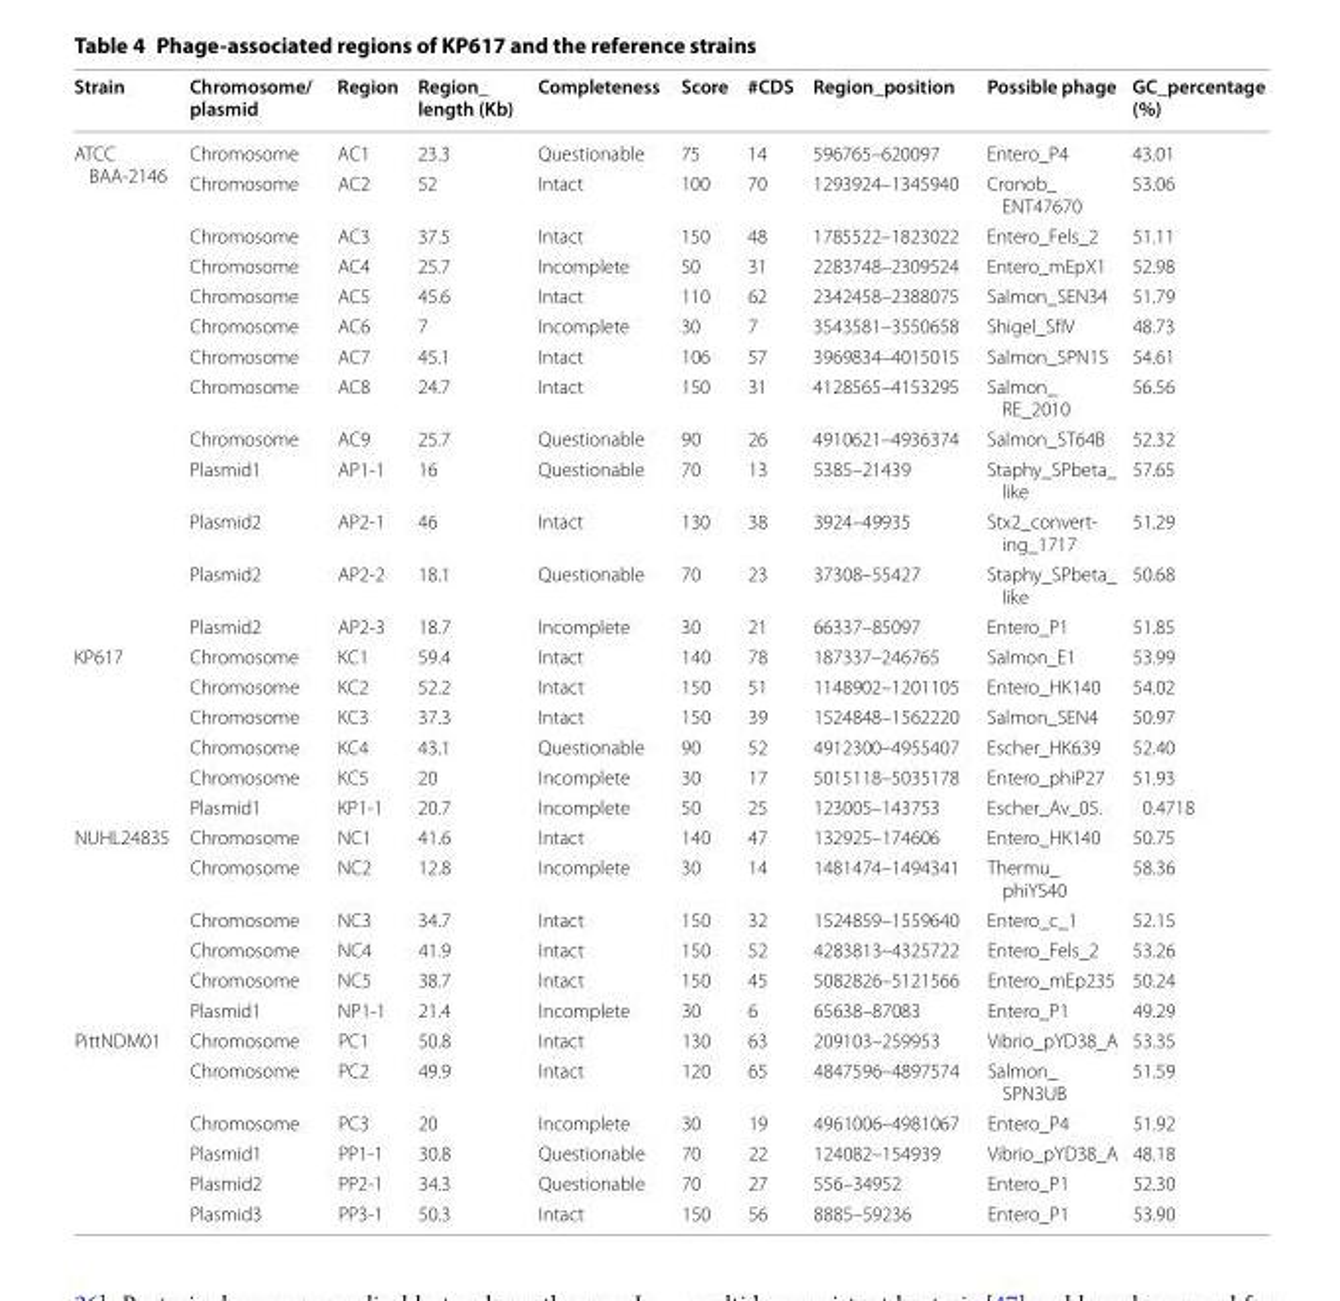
<table><thead><tr><td>Strain</td><td>Chromosome/ plasmid</td><td>Region</td><td>Region_ length (Kb)</td><td>Completeness</td><td>Score</td><td>#CDS</td><td>Region_position</td><td>Possible phage</td><td>GC_percentage (%)</td></tr></thead><tbody><tr><td rowspan="13">ATCC BAA‑2146</td><td>Chromosome</td><td>AC1</td><td>23.3</td><td>Questionable</td><td>75</td><td>14</td><td>596765–620097</td><td>Entero_P4</td><td>43.01</td></tr><tr><td>Chromosome</td><td>AC2</td><td>52</td><td>Intact</td><td>100</td><td>70</td><td>1293924–1345940</td><td>Cronob_ ENT47670</td><td>53.06</td></tr><tr><td>Chromosome</td><td>AC3</td><td>37.5</td><td>Intact</td><td>150</td><td>48</td><td>1785522–1823022</td><td>Entero_Fels_2</td><td>51.11</td></tr><tr><td>Chromosome</td><td>AC4</td><td>25.7</td><td>Incomplete</td><td>50</td><td>31</td><td>2283748–2309524</td><td>Entero_mEpX1</td><td>52.98</td></tr><tr><td>Chromosome</td><td>AC5</td><td>45.6</td><td>Intact</td><td>110</td><td>62</td><td>2342458–2388075</td><td>Salmon_SEN34</td><td>51.79</td></tr><tr><td>Chromosome</td><td>AC6</td><td>7</td><td>Incomplete</td><td>30</td><td>7</td><td>3543581–3550658</td><td>Shigel_SfIV</td><td>48.73</td></tr><tr><td>Chromosome</td><td>AC7</td><td>45.1</td><td>Intact</td><td>106</td><td>57</td><td>3969834–4015015</td><td>Salmon_SPN1S</td><td>54.61</td></tr><tr><td>Chromosome</td><td>AC8</td><td>24.7</td><td>Intact</td><td>150</td><td>31</td><td>4128565–4153295</td><td>Salmon_ RE_2010</td><td>56.56</td></tr><tr><td>Chromosome</td><td>AC9</td><td>25.7</td><td>Questionable</td><td>90</td><td>26</td><td>4910621–4936374</td><td>Salmon_ST64B</td><td>52.32</td></tr><tr><td>Plasmid1</td><td>AP1‑1</td><td>16</td><td>Questionable</td><td>70</td><td>13</td><td>5385–21439</td><td>Staphy_SPbeta_ like</td><td>57.65</td></tr><tr><td>Plasmid2</td><td>AP2‑1</td><td>46</td><td>Intact</td><td>130</td><td>38</td><td>3924–49935</td><td>Stx2_convert‑ ing_1717</td><td>51.29</td></tr><tr><td>Plasmid2</td><td>AP2‑2</td><td>18.1</td><td>Questionable</td><td>70</td><td>23</td><td>37308–55427</td><td>Staphy_SPbeta_ like</td><td>50.68</td></tr><tr><td>Plasmid2</td><td>AP2‑3</td><td>18.7</td><td>Incomplete</td><td>30</td><td>21</td><td>66337–85097</td><td>Entero_P1</td><td>51.85</td></tr><tr><td rowspan="6">KP617</td><td>Chromosome</td><td>KC1</td><td>59.4</td><td>Intact</td><td>140</td><td>78</td><td>187337–246765</td><td>Salmon_E1</td><td>53.99</td></tr><tr><td>Chromosome</td><td>KC2</td><td>52.2</td><td>Intact</td><td>150</td><td>51</td><td>1148902–1201105</td><td>Entero_HK140</td><td>54.02</td></tr><tr><td>Chromosome</td><td>KC3</td><td>37.3</td><td>Intact</td><td>150</td><td>39</td><td>1524848–1562220</td><td>Salmon_SEN4</td><td>50.97</td></tr><tr><td>Chromosome</td><td>KC4</td><td>43.1</td><td>Questionable</td><td>90</td><td>52</td><td>4912300–4955407</td><td>Escher_HK639</td><td>52.40</td></tr><tr><td>Chromosome</td><td>KC5</td><td>20</td><td>Incomplete</td><td>30</td><td>17</td><td>5015118–5035178</td><td>Entero_phiP27</td><td>51.93</td></tr><tr><td>Plasmid1</td><td>KP1‑1</td><td>20.7</td><td>Incomplete</td><td>50</td><td>25</td><td>123005–143753</td><td>Escher_Av_05.</td><td>0.4718</td></tr><tr><td rowspan="6">NUHL24835</td><td>Chromosome</td><td>NC1</td><td>41.6</td><td>Intact</td><td>140</td><td>47</td><td>132925–174606</td><td>Entero_HK140</td><td>50.75</td></tr><tr><td>Chromosome</td><td>NC2</td><td>12.8</td><td>Incomplete</td><td>30</td><td>14</td><td>1481474–1494341</td><td>Thermu_ phiYS40</td><td>58.36</td></tr><tr><td>Chromosome</td><td>NC3</td><td>34.7</td><td>Intact</td><td>150</td><td>32</td><td>1524859–1559640</td><td>Entero_c_1</td><td>52.15</td></tr><tr><td>Chromosome</td><td>NC4</td><td>41.9</td><td>Intact</td><td>150</td><td>52</td><td>4283813–4325722</td><td>Entero_Fels_2</td><td>53.26</td></tr><tr><td>Chromosome</td><td>NC5</td><td>38.7</td><td>Intact</td><td>150</td><td>45</td><td>5082826–5121566</td><td>Entero_mEp235</td><td>50.24</td></tr><tr><td>Plasmid1</td><td>NP1‑1</td><td>21.4</td><td>Incomplete</td><td>30</td><td>6</td><td>65638–87083</td><td>Entero_P1</td><td>49.29</td></tr><tr><td rowspan="6">PittNDM01</td><td>Chromosome</td><td>PC1</td><td>50.8</td><td>Intact</td><td>130</td><td>63</td><td>209103–259953</td><td>Vibrio_pYD38_A</td><td>53.35</td></tr><tr><td>Chromosome</td><td>PC2</td><td>49.9</td><td>Intact</td><td>120</td><td>65</td><td>4847596–4897574</td><td>Salmon_ SPN3UB</td><td>51.59</td></tr><tr><td>Chromosome</td><td>PC3</td><td>20</td><td>Incomplete</td><td>30</td><td>19</td><td>4961006–4981067</td><td>Entero_P4</td><td>51.92</td></tr><tr><td>Plasmid1</td><td>PP1‑1</td><td>30.8</td><td>Questionable</td><td>70</td><td>22</td><td>124082–154939</td><td>Vibrio_pYD38_A</td><td>48.18</td></tr><tr><td>Plasmid2</td><td>PP2‑1</td><td>34.3</td><td>Questionable</td><td>70</td><td>27</td><td>556–34952</td><td>Entero_P1</td><td>52.30</td></tr><tr><td>Plasmid3</td><td>PP3‑1</td><td>50.3</td><td>Intact</td><td>150</td><td>56</td><td>8885–59236</td><td>Entero_P1</td><td>53.90</td></tr></tbody></table>